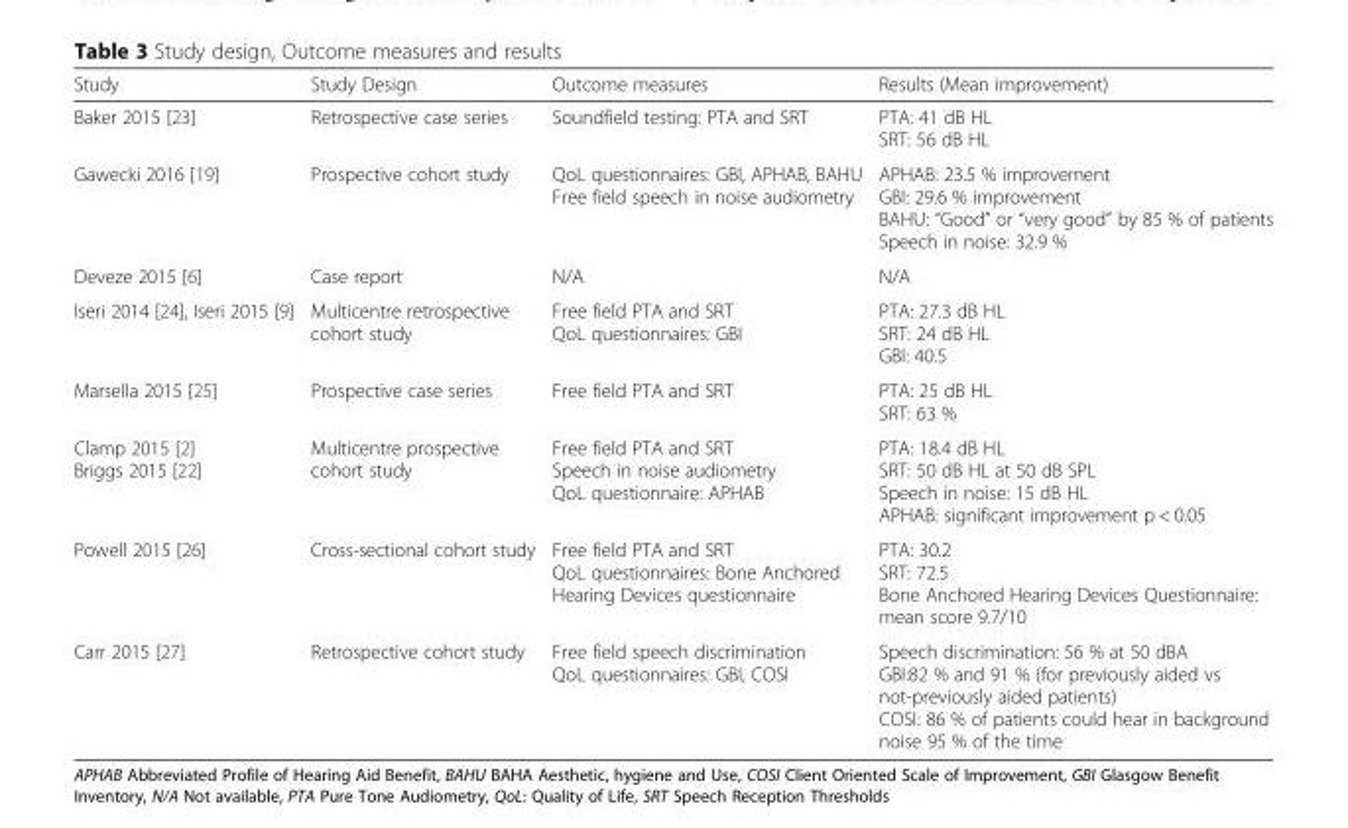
<table><thead><tr><td>Study</td><td>Study Design</td><td>Outcome measures</td><td>Results (Mean improvement)</td></tr></thead><tbody><tr><td>Baker 2015 [23]</td><td>Retrospective case series</td><td>Soundfield testing: PTA and SRT</td><td>PTA: 41 dB HL SRT: 56 dB HL</td></tr><tr><td>Gawecki 2016 [19]</td><td>Prospective cohort study</td><td>QoL questionnaires: GBI, APHAB, BAHU Free field speech in noise audiometry</td><td>APHAB: 23.5 % improvement GBI: 29.6 % improvement BAHU: “Good” or “very good” by 85 % of patients Speech in noise: 32.9 %</td></tr><tr><td>Deveze 2015 [6]</td><td>Case report</td><td>N/A</td><td>N/A</td></tr><tr><td>Iseri 2014 [24], Iseri 2015 [9]</td><td>Multicentre retrospective cohort study</td><td>Free field PTA and SRT QoL questionnaires: GBI</td><td>PTA: 27.3 dB HL SRT: 24 dB HL GBI: 40.5</td></tr><tr><td>Marsella 2015 [25]</td><td>Prospective case series</td><td>Free field PTA and SRT</td><td>PTA: 25 dB HL SRT: 63 %</td></tr><tr><td>Clamp 2015 [2] Briggs 2015 [22]</td><td>Multicentre prospective cohort study</td><td>Free field PTA and SRT Speech in noise audiometry QoL questionnaire: APHAB</td><td>PTA: 18.4 dB HL SRT: 50 dB HL at 50 dB SPL Speech in noise: 15 dB HL APHAB: significant improvement p &lt; 0.05</td></tr><tr><td>Powell 2015 [26]</td><td>Cross-sectional cohort study</td><td>Free field PTA and SRT QoL questionnaires: Bone Anchored Hearing Devices questionnaire</td><td>PTA: 30.2 SRT: 72.5 Bone Anchored Hearing Devices Questionnaire: mean score 9.7/10</td></tr><tr><td>Carr 2015 [27]</td><td>Retrospective cohort study</td><td>Free field speech discrimination QoL questionnaires: GBI, COSI</td><td>Speech discrimination: 56 % at 50 dBA GBI:82 % and 91 % (for previously aided vs not-previously aided patients) COSI: 86 % of patients could hear in background noise 95 % of the time</td></tr></tbody></table>